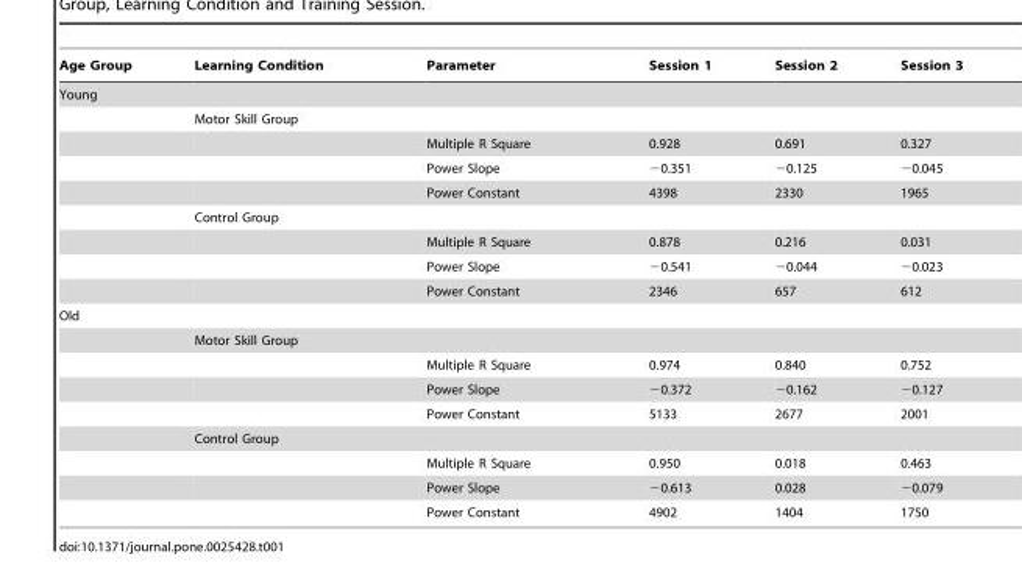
<table><thead><tr><td>Age Group</td><td>Learning Condition</td><td>Parameter</td><td>Session 1</td><td>Session 2</td><td>Session 3</td></tr></thead><tbody><tr><td colspan="6">Young</td></tr><tr><td></td><td colspan="5">Motor Skill Group</td></tr><tr><td></td><td></td><td>Multiple R Square</td><td>0.928</td><td>0.691</td><td>0.327</td></tr><tr><td></td><td></td><td>Power Slope</td><td>−0.351</td><td>−0.125</td><td>−0.045</td></tr><tr><td></td><td></td><td>Power Constant</td><td>4398</td><td>2330</td><td>1965</td></tr><tr><td></td><td colspan="5">Control Group</td></tr><tr><td></td><td></td><td>Multiple R Square</td><td>0.878</td><td>0.216</td><td>0.031</td></tr><tr><td></td><td></td><td>Power Slope</td><td>−0.541</td><td>−0.044</td><td>−0.023</td></tr><tr><td></td><td></td><td>Power Constant</td><td>2346</td><td>657</td><td>612</td></tr><tr><td colspan="6">Old</td></tr><tr><td></td><td colspan="5">Motor Skill Group</td></tr><tr><td></td><td></td><td>Multiple R Square</td><td>0.974</td><td>0.840</td><td>0.752</td></tr><tr><td></td><td></td><td>Power Slope</td><td>−0.372</td><td>−0.162</td><td>−0.127</td></tr><tr><td></td><td></td><td>Power Constant</td><td>5133</td><td>2677</td><td>2001</td></tr><tr><td></td><td colspan="5">Control Group</td></tr><tr><td></td><td></td><td>Multiple R Square</td><td>0.950</td><td>0.018</td><td>0.463</td></tr><tr><td></td><td></td><td>Power Slope</td><td>−0.613</td><td>0.028</td><td>−0.079</td></tr><tr><td></td><td></td><td>Power Constant</td><td>4902</td><td>1404</td><td>1750</td></tr></tbody></table>